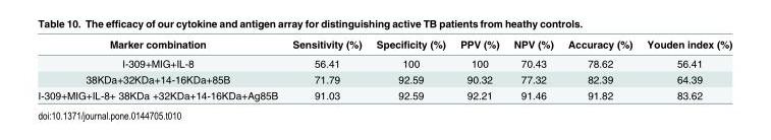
<table><thead><tr><td>Marker combination</td><td>Sensitivity (%)</td><td>Specificity (%)</td><td>PPV (%)</td><td>NPV (%)</td><td>Accuracy (%)</td><td>Youden index (%)</td></tr></thead><tbody><tr><td>I-309+MIG+IL-8</td><td>56.41</td><td>100</td><td>100</td><td>70.43</td><td>78.62</td><td>56.41</td></tr><tr><td>38KDa+32KDa+14-16KDa+85B</td><td>71.79</td><td>92.59</td><td>90.32</td><td>77.32</td><td>82.39</td><td>64.39</td></tr><tr><td>I-309+MIG+IL-8+ 38KDa +32KDa+14-16KDa+Ag85B</td><td>91.03</td><td>92.59</td><td>92.21</td><td>91.46</td><td>91.82</td><td>83.62</td></tr></tbody></table>